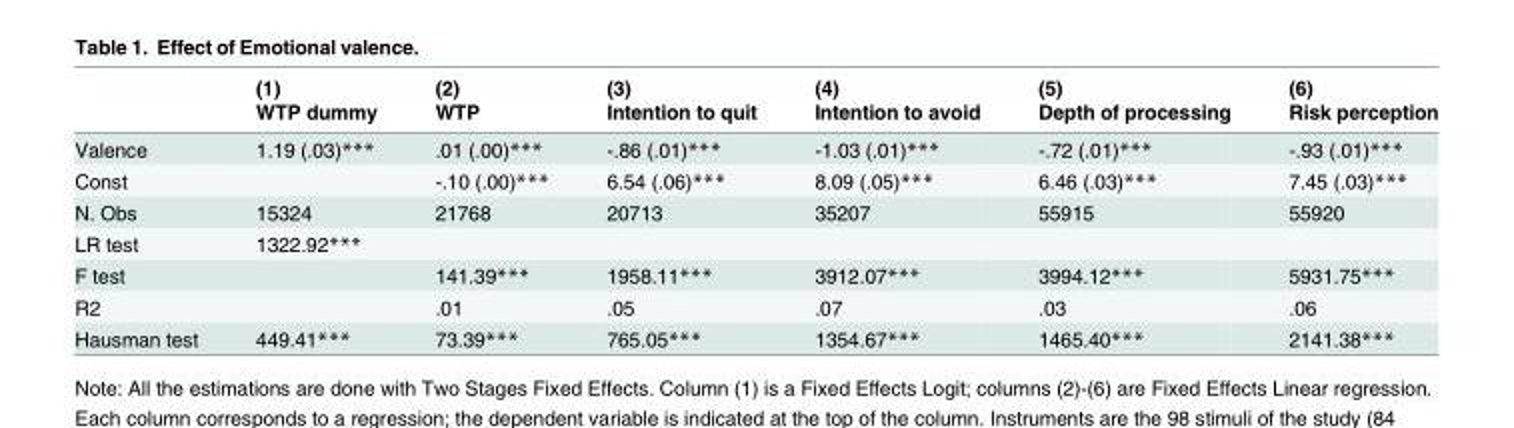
<table><thead><tr><td rowspan="2"></td><td rowspan="2">(1) WTP dummy</td><td rowspan="2">(2) WTP</td><td rowspan="2">(3) Intention to quit</td><td rowspan="2">(4) Intention to avoid</td><td rowspan="2">(5) Depth of processing</td><td rowspan="2">(6) Risk perception</td></tr><tr></tr></thead><tbody><tr><td>Valence</td><td>1.19 (.03)***</td><td>.01 (.00)***</td><td>-.86 (.01)***</td><td>-1.03 (.01)***</td><td>-.72 (.01)***</td><td>-.93 (.01)***</td></tr><tr><td>Const</td><td></td><td>-.10 (.00)***</td><td>6.54 (.06)***</td><td>8.09 (.05)***</td><td>6.46 (.03)***</td><td>7.45 (.03)***</td></tr><tr><td>N. Obs</td><td>15324</td><td>21768</td><td>20713</td><td>35207</td><td>55915</td><td>55920</td></tr><tr><td>LR test</td><td>1322.92***</td><td></td><td></td><td></td><td></td><td></td></tr><tr><td>F test</td><td></td><td>141.39***</td><td>1958.11***</td><td>3912.07***</td><td>3994.12***</td><td>5931.75***</td></tr><tr><td>R2</td><td></td><td>.01</td><td>.05</td><td>.07</td><td>.03</td><td>.06</td></tr><tr><td>Hausman test</td><td>449.41***</td><td>73.39***</td><td>765.05***</td><td>1354.67***</td><td>1465.40***</td><td>2141.38***</td></tr></tbody></table>